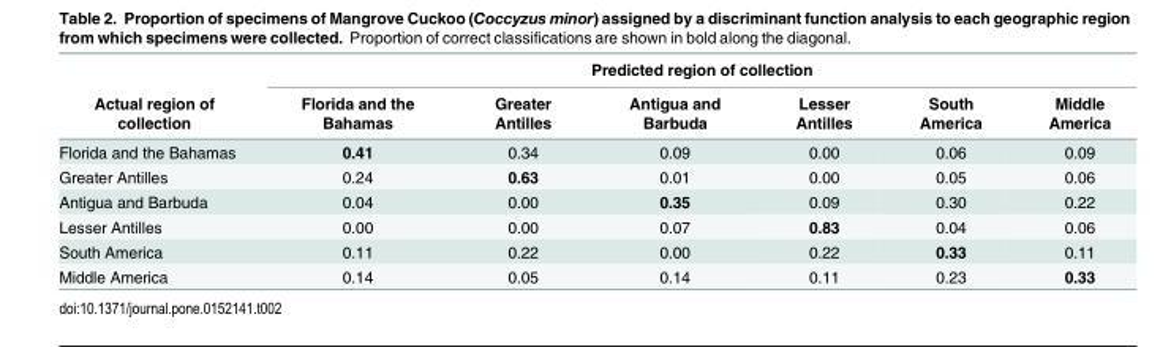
<table><thead><tr><td rowspan="2">Actual region of collection</td><td colspan="6">Predicted region of collection</td></tr><tr><td>Florida and the Bahamas</td><td>Greater Antilles</td><td>Antigua and Barbuda</td><td>Lesser Antilles</td><td>South America</td><td>Middle America</td></tr></thead><tbody><tr><td>Florida and the Bahamas</td><td>0.41</td><td>0.34</td><td>0.09</td><td>0.00</td><td>0.06</td><td>0.09</td></tr><tr><td>Greater Antilles</td><td>0.24</td><td>0.63</td><td>0.01</td><td>0.00</td><td>0.05</td><td>0.06</td></tr><tr><td>Antigua and Barbuda</td><td>0.04</td><td>0.00</td><td>0.35</td><td>0.09</td><td>0.30</td><td>0.22</td></tr><tr><td>Lesser Antilles</td><td>0.00</td><td>0.00</td><td>0.07</td><td>0.83</td><td>0.04</td><td>0.06</td></tr><tr><td>South America</td><td>0.11</td><td>0.22</td><td>0.00</td><td>0.22</td><td>0.33</td><td>0.11</td></tr><tr><td>Middle America</td><td>0.14</td><td>0.05</td><td>0.14</td><td>0.11</td><td>0.23</td><td>0.33</td></tr></tbody></table>